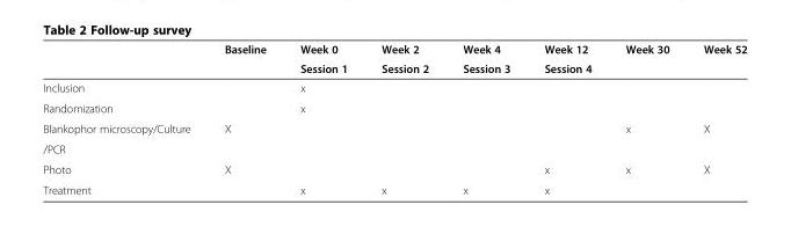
<table><thead><tr><td rowspan="2"></td><td rowspan="2">Baseline</td><td rowspan="2">Week 0 Session 1</td><td rowspan="2">Week 2 Session 2</td><td rowspan="2">Week 4 Session 3</td><td rowspan="2">Week 12 Session 4</td><td rowspan="2">Week 30</td><td rowspan="2">Week 52</td></tr><tr></tr></thead><tbody><tr><td>Inclusion</td><td></td><td>x</td><td></td><td></td><td></td><td></td><td></td></tr><tr><td>Randomization</td><td></td><td>x</td><td></td><td></td><td></td><td></td><td></td></tr><tr><td>Blankophor microscopy/Culture</td><td>X</td><td></td><td></td><td></td><td></td><td>x</td><td>X</td></tr><tr><td colspan="8">/PCR</td></tr><tr><td>Photo</td><td>X</td><td></td><td></td><td></td><td>x</td><td>x</td><td>X</td></tr><tr><td>Treatment</td><td></td><td>x</td><td>x</td><td>x</td><td>x</td><td></td><td></td></tr></tbody></table>